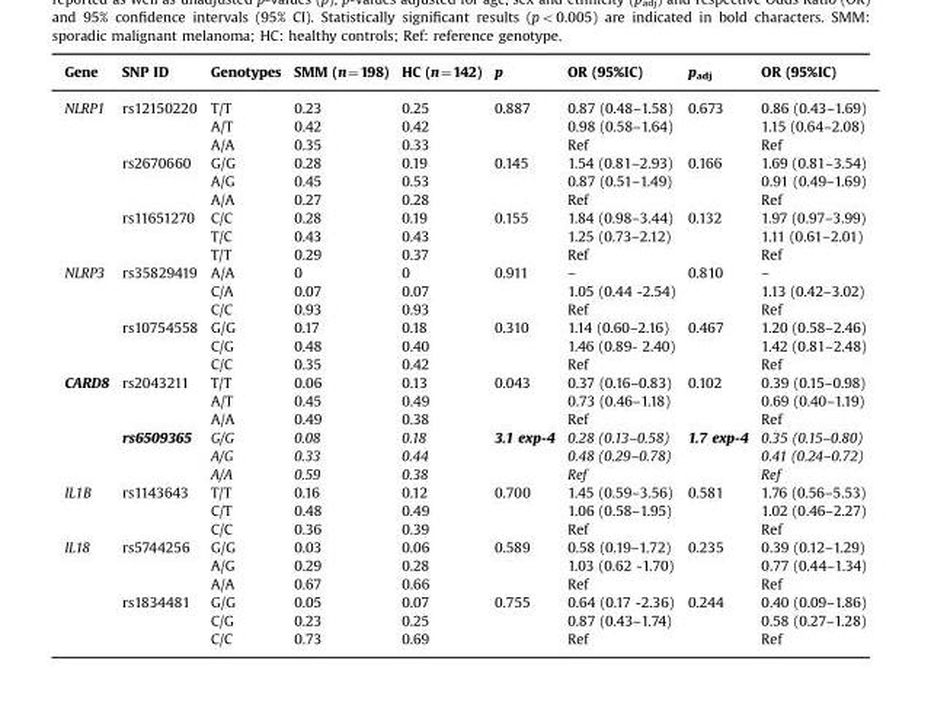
<table><tbody><tr><td>Gene</td><td>SNP ID</td><td>Genotypes</td><td>SMM (n=198)</td><td>HC (n=142)</td><td>p</td><td>OR (95%IC)</td><td>p<sub>adj</sub></td><td>OR (95%IC)</td></tr><tr><td rowspan="9">NLRP1</td><td rowspan="3">rs12150220</td><td>T/T</td><td>0.23</td><td>0.25</td><td rowspan="3">0.887</td><td>0.87 (0.48–1.58)</td><td rowspan="3">0.673</td><td>0.86 (0.43–1.69)</td></tr><tr><td>A/T</td><td>0.42</td><td>0.42</td><td>0.98 (0.58–1.64)</td><td>1.15 (0.64–2.08)</td></tr><tr><td>A/A</td><td>0.35</td><td>0.33</td><td>Ref</td><td>Ref</td></tr><tr><td rowspan="3">rs2670660</td><td>G/G</td><td>0.28</td><td>0.19</td><td rowspan="3">0.145</td><td>1.54 (0.81–2.93)</td><td rowspan="3">0.166</td><td>1.69 (0.81–3.54)</td></tr><tr><td>A/G</td><td>0.45</td><td>0.53</td><td>0.87 (0.51–1.49)</td><td>0.91 (0.49–1.69)</td></tr><tr><td>A/A</td><td>0.27</td><td>0.28</td><td>Ref</td><td>Ref</td></tr><tr><td rowspan="3">rs11651270</td><td>C/C</td><td>0.28</td><td>0.19</td><td rowspan="3">0.155</td><td>1.84 (0.98–3.44)</td><td rowspan="3">0.132</td><td>1.97 (0.97–3.99)</td></tr><tr><td>T/C</td><td>0.43</td><td>0.43</td><td>1.25 (0.73–2.12)</td><td>1.11 (0.61–2.01)</td></tr><tr><td>T/T</td><td>0.29</td><td>0.37</td><td>Ref</td><td>Ref</td></tr><tr><td rowspan="6">NLRP3</td><td rowspan="3">rs35829419</td><td>A/A</td><td>0</td><td>0</td><td rowspan="3">0.911</td><td>–</td><td rowspan="3">0.810</td><td>–</td></tr><tr><td>C/A</td><td>0.07</td><td>0.07</td><td>1.05 (0.44 -2.54)</td><td>1.13 (0.42–3.02)</td></tr><tr><td>C/C</td><td>0.93</td><td>0.93</td><td>Ref</td><td>Ref</td></tr><tr><td rowspan="3">rs10754558</td><td>G/G</td><td>0.17</td><td>0.18</td><td rowspan="3">0.310</td><td>1.14 (0.60–2.16)</td><td rowspan="3">0.467</td><td>1.20 (0.58–2.46)</td></tr><tr><td>C/G</td><td>0.48</td><td>0.40</td><td>1.46 (0.89- 2.40)</td><td>1.42 (0.81–2.48)</td></tr><tr><td>C/C</td><td>0.35</td><td>0.42</td><td>Ref</td><td>Ref</td></tr><tr><td rowspan="6">CARD8</td><td rowspan="3">rs2043211</td><td>T/T</td><td>0.06</td><td>0.13</td><td rowspan="3">0.043</td><td>0.37 (0.16–0.83)</td><td rowspan="3">0.102</td><td>0.39 (0.15–0.98)</td></tr><tr><td>A/T</td><td>0.45</td><td>0.49</td><td>0.73 (0.46–1.18)</td><td>0.69 (0.40–1.19)</td></tr><tr><td>A/A</td><td>0.49</td><td>0.38</td><td>Ref</td><td>Ref</td></tr><tr><td rowspan="3">rs6509365</td><td>G/G</td><td>0.08</td><td>0.18</td><td rowspan="3">3.1 exp-4</td><td>0.28 (0.13–0.58)</td><td rowspan="3">1.7 exp-4</td><td>0.35 (0.15–0.80)</td></tr><tr><td>A/G</td><td>0.33</td><td>0.44</td><td>0.48 (0.29–0.78)</td><td>0.41 (0.24–0.72)</td></tr><tr><td>A/A</td><td>0.59</td><td>0.38</td><td>Ref</td><td>Ref</td></tr><tr><td rowspan="3">IL1B</td><td rowspan="3">rs1143643</td><td>T/T</td><td>0.16</td><td>0.12</td><td rowspan="3">0.700</td><td>1.45 (0.59–3.56)</td><td rowspan="3">0.581</td><td>1.76 (0.56–5.53)</td></tr><tr><td>C/T</td><td>0.48</td><td>0.49</td><td>1.06 (0.58–1.95)</td><td>1.02 (0.46–2.27)</td></tr><tr><td>C/C</td><td>0.36</td><td>0.39</td><td>Ref</td><td>Ref</td></tr><tr><td rowspan="6">IL18</td><td rowspan="3">rs5744256</td><td>G/G</td><td>0.03</td><td>0.06</td><td rowspan="3">0.589</td><td>0.58 (0.19–1.72)</td><td rowspan="3">0.235</td><td>0.39 (0.12–1.29)</td></tr><tr><td>A/G</td><td>0.29</td><td>0.28</td><td>1.03 (0.62 -1.70)</td><td>0.77 (0.44–1.34)</td></tr><tr><td>A/A</td><td>0.67</td><td>0.66</td><td>Ref</td><td>Ref</td></tr><tr><td rowspan="3">rs1834481</td><td>G/G</td><td>0.05</td><td>0.07</td><td rowspan="3">0.755</td><td>0.64 (0.17 -2.36)</td><td rowspan="3">0.244</td><td>0.40 (0.09–1.86)</td></tr><tr><td>C/G</td><td>0.23</td><td>0.25</td><td>0.87 (0.43–1.74)</td><td>0.58 (0.27–1.28)</td></tr><tr><td>C/C</td><td>0.73</td><td>0.69</td><td>Ref</td><td>Ref</td></tr></tbody></table>